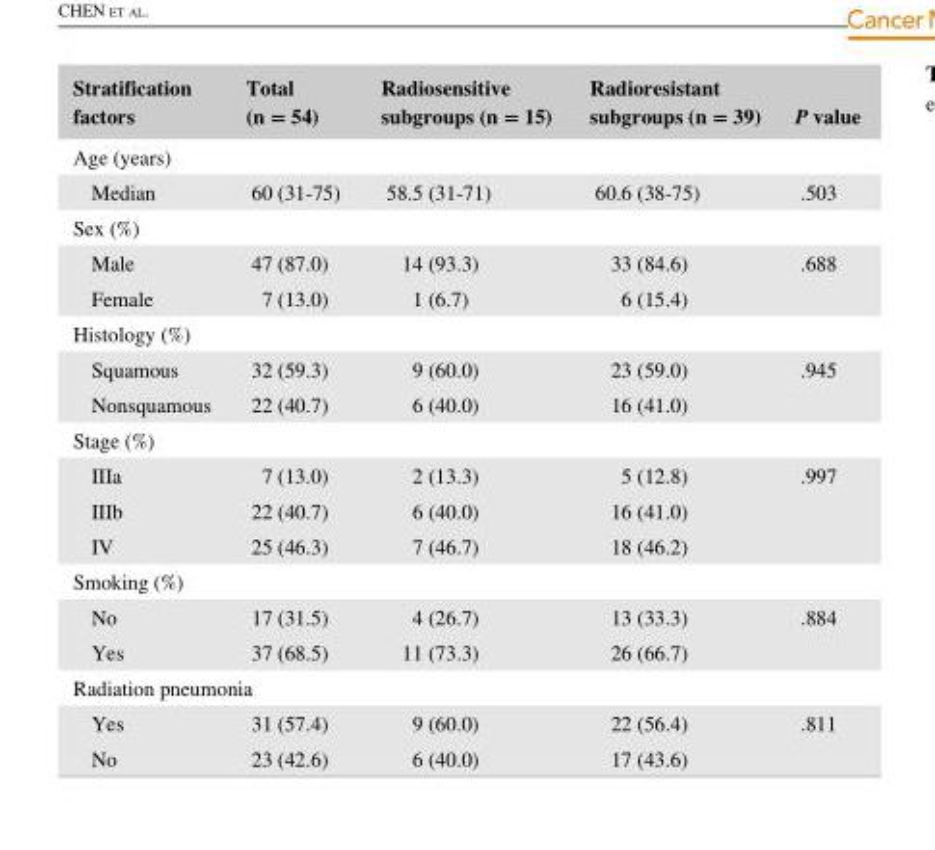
<table><thead><tr><td>Stratification factors</td><td>Total (n = 54)</td><td>Radiosensitive subgroups (n = 15)</td><td>Radioresistant subgroups (n = 39)</td><td>P value</td></tr></thead><tbody><tr><td colspan="5">Age (years)</td></tr><tr><td>Median</td><td>60 (31- 75)</td><td>58.5 (31- 71)</td><td>60.6 (38- 75)</td><td>.503</td></tr><tr><td colspan="5">Sex (%)</td></tr><tr><td>Male</td><td>47 (87.0)</td><td>14 (93.3)</td><td>33 (84.6)</td><td rowspan="2">.688</td></tr><tr><td>Female</td><td>7 (13.0)</td><td>1 (6.7)</td><td>6 (15.4)</td></tr><tr><td colspan="5">Histology (%)</td></tr><tr><td>Squamous</td><td>32 (59.3)</td><td>9 (60.0)</td><td>23 (59.0)</td><td rowspan="2">.945</td></tr><tr><td>Nonsquamous</td><td>22 (40.7)</td><td>6 (40.0)</td><td>16 (41.0)</td></tr><tr><td colspan="5">Stage (%)</td></tr><tr><td>IIIa</td><td>7 (13.0)</td><td>2 (13.3)</td><td>5 (12.8)</td><td rowspan="3">.997</td></tr><tr><td>IIIb</td><td>22 (40.7)</td><td>6 (40.0)</td><td>16 (41.0)</td></tr><tr><td>IV</td><td>25 (46.3)</td><td>7 (46.7)</td><td>18 (46.2)</td></tr><tr><td colspan="5">Smoking (%)</td></tr><tr><td>No</td><td>17 (31.5)</td><td>4 (26.7)</td><td>13 (33.3)</td><td rowspan="2">.884</td></tr><tr><td>Yes</td><td>37 (68.5)</td><td>11 (73.3)</td><td>26 (66.7)</td></tr><tr><td colspan="5">Radiation pneumonia</td></tr><tr><td>Yes</td><td>31 (57.4)</td><td>9 (60.0)</td><td>22 (56.4)</td><td rowspan="2">.811</td></tr><tr><td>No</td><td>23 (42.6)</td><td>6 (40.0)</td><td>17 (43.6)</td></tr></tbody></table>